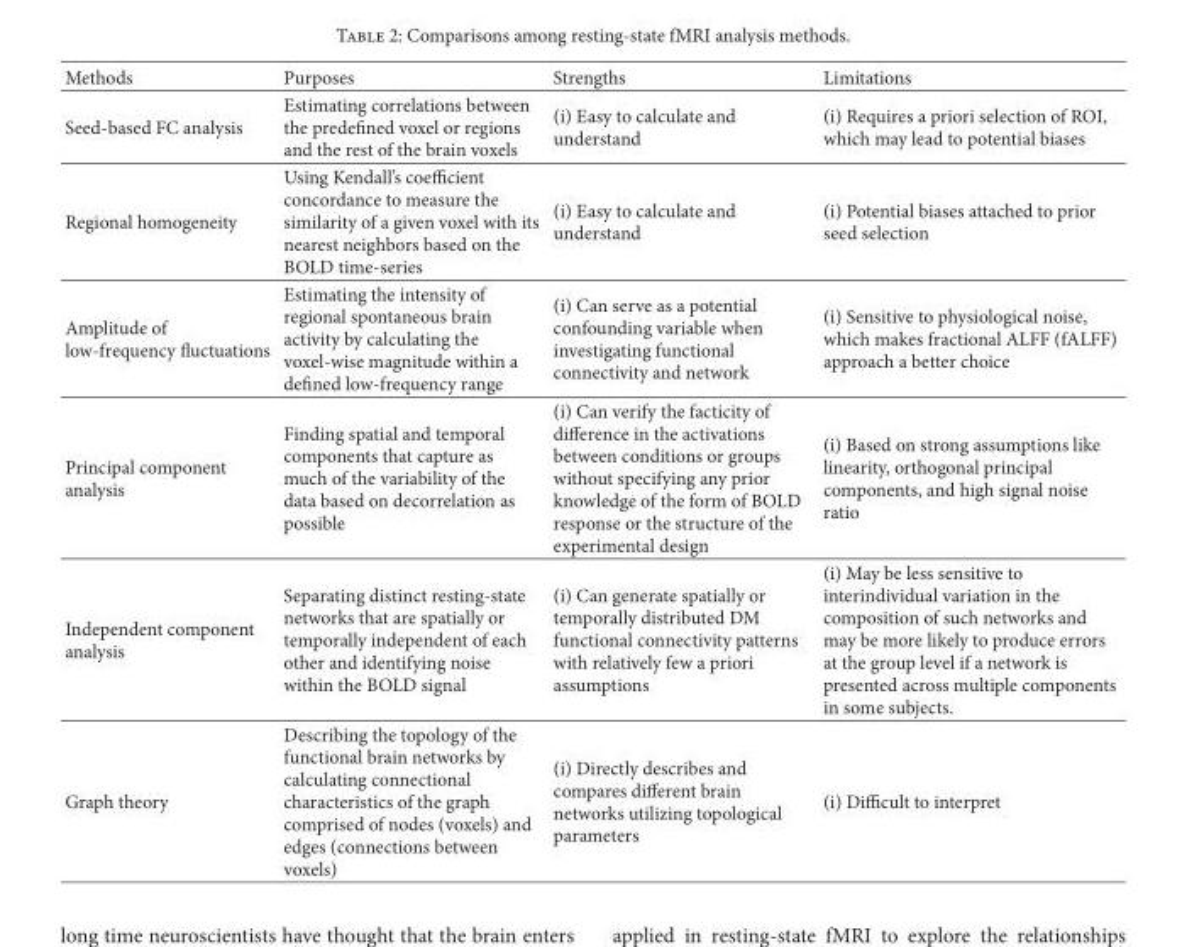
<table><thead><tr><td>Methods</td><td>Purposes</td><td>Strengths</td><td>Limitations</td></tr></thead><tbody><tr><td>Seed-based FC analysis</td><td>Estimating correlations between the predefined voxel or regions and the rest of the brain voxels</td><td>(i) Easy to calculate and understand</td><td>(i) Requires a priori selection of ROI, which may lead to potential biases</td></tr><tr><td>Regional homogeneity</td><td>Using Kendall’s coefficient concordance to measure the similarity of a given voxel with its nearest neighbors based on the BOLD time-series</td><td>(i) Easy to calculate and understand</td><td>(i) Potential biases attached to prior seed selection</td></tr><tr><td>Amplitude of low-frequency fluctuations</td><td>Estimating the intensity of regional spontaneous brain activity by calculating the voxel-wise magnitude within a defined low-frequency range</td><td>(i) Can serve as a potential confounding variable when investigating functional connectivity and network</td><td>(i) Sensitive to physiological noise, which makes fractional ALFF (fALFF) approach a better choice</td></tr><tr><td>Principal component analysis</td><td>Finding spatial and temporal components that capture as much of the variability of the data based on decorrelation as possible</td><td>(i) Can verify the facticity of difference in the activations between conditions or groups without specifying any prior knowledge of the form of BOLD response or the structure of the experimental design</td><td>(i) Based on strong assumptions like linearity, orthogonal principal components, and high signal noise ratio</td></tr><tr><td>Independent component analysis</td><td>Separating distinct resting-state networks that are spatially or temporally independent of each other and identifying noise within the BOLD signal</td><td>(i) Can generate spatially or temporally distributed DM functional connectivity patterns with relatively few a priori assumptions</td><td>(i) May be less sensitive to interindividual variation in the composition of such networks and may be more likely to produce errors at the group level if a network is presented across multiple components in some subjects.</td></tr><tr><td>Graph theory</td><td>Describing the topology of the functional brain networks by calculating connectional characteristics of the graph comprised of nodes (voxels) and edges (connections between voxels)</td><td>(i) Directly describes and compares different brain networks utilizing topological parameters</td><td>(i) Difficult to interpret</td></tr></tbody></table>